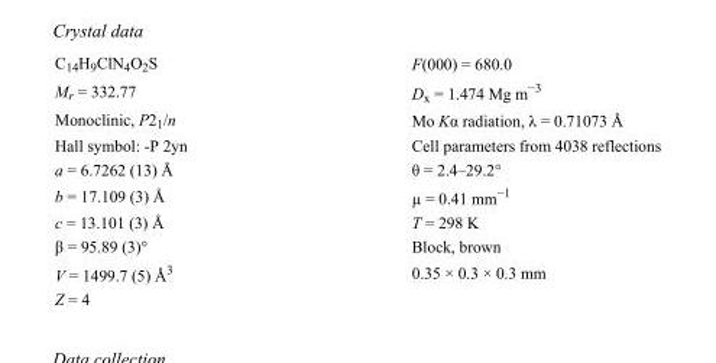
<table><tbody><tr><td>C<sub>14</sub>H<sub>9</sub>ClN<sub>4</sub>O<sub>2</sub>S</td><td>F(000) = 680.0</td></tr><tr><td>M<sub>r</sub> = 332.77</td><td>D<sub>x</sub> = 1.474 Mg m<sup>−3</sup></td></tr><tr><td>Monoclinic, P2<sub>1</sub>/n</td><td>Mo Kα radiation, λ = 0.71073 Å</td></tr><tr><td>Hall symbol: -P 2yn</td><td>Cell parameters from 4038 reflections</td></tr><tr><td>a = 6.7262 (13) Å</td><td>θ = 2.4–29.2°</td></tr><tr><td>b = 17.109 (3) Å</td><td>µ = 0.41 mm<sup>−1</sup></td></tr><tr><td>c = 13.101 (3) Å</td><td>T = 298 K</td></tr><tr><td>β = 95.89 (3)°</td><td>Block, brown</td></tr><tr><td>V = 1499.7 (5) Å<sup>3</sup></td><td>0.35 × 0.3 × 0.3 mm</td></tr><tr><td>Z = 4</td><td></td></tr></tbody></table>